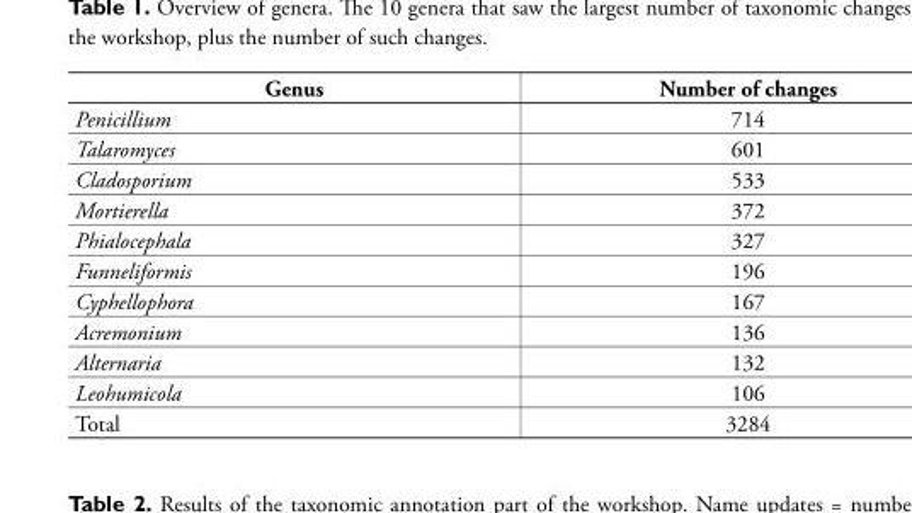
<table><thead><tr><td>Genus</td><td>Number of changes</td></tr></thead><tbody><tr><td>Penicillium</td><td>714</td></tr><tr><td>Talaromyces</td><td>601</td></tr><tr><td>Cladosporium</td><td>533</td></tr><tr><td>Mortierella</td><td>372</td></tr><tr><td>Phialocephala</td><td>327</td></tr><tr><td>Funneliformis</td><td>196</td></tr><tr><td>Cyphellophora</td><td>167</td></tr><tr><td>Acremonium</td><td>136</td></tr><tr><td>Alternaria</td><td>132</td></tr><tr><td>Leohumicola</td><td>106</td></tr><tr><td>Total</td><td>3284</td></tr></tbody></table>